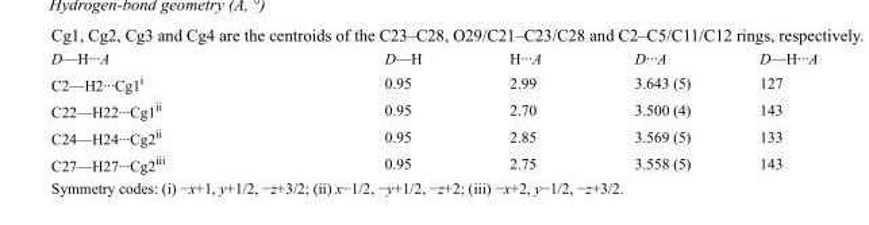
<table><tbody><tr><td>D—H···A</td><td>D—H</td><td>H···A</td><td>D···A</td><td>D—H···A</td></tr><tr><td>C2—H2···Cg1<sup>i</sup></td><td>0.95</td><td>2.99</td><td>3.643 (5)</td><td>127</td></tr><tr><td>C22—H22···Cg1<sup>ii</sup></td><td>0.95</td><td>2.70</td><td>3.500 (4)</td><td>143</td></tr><tr><td>C24—H24···Cg2<sup>ii</sup></td><td>0.95</td><td>2.85</td><td>3.569 (5)</td><td>133</td></tr><tr><td>C27—H27···Cg2<sup>iii</sup></td><td>0.95</td><td>2.75</td><td>3.558 (5)</td><td>143</td></tr></tbody></table>